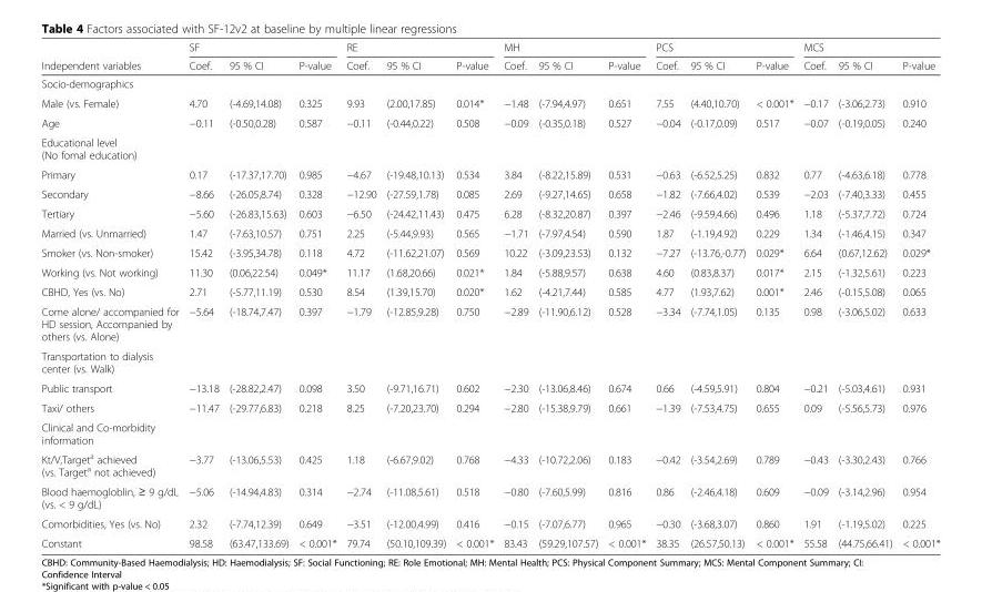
<table><thead><tr><td rowspan="2">Independent variables</td><td colspan="3">SF</td><td colspan="3">RE</td><td colspan="3">MH</td><td colspan="3">PCS</td><td colspan="3">MCS</td></tr><tr><td>Coef.</td><td>95 % CI</td><td>P-value</td><td>Coef.</td><td>95 % CI</td><td>P-value</td><td>Coef.</td><td>95 % CI</td><td>P-value</td><td>Coef.</td><td>95 % CI</td><td>P-value</td><td>Coef.</td><td>95 % CI</td><td>P-value</td></tr></thead><tbody><tr><td colspan="16">Socio-demographics</td></tr><tr><td>Male (vs. Female)</td><td>4.70</td><td>(-4.69,14.08)</td><td>0.325</td><td>9.93</td><td>(2.00,17.85)</td><td>0.014*</td><td>−1.48</td><td>(-7.94,4.97)</td><td>0.651</td><td>7.55</td><td>(4.40,10.70)</td><td>&lt; 0.001*</td><td>−0.17</td><td>(-3.06,2.73)</td><td>0.910</td></tr><tr><td>Age</td><td>−0.11</td><td>(-0.50,0.28)</td><td>0.587</td><td>−0.11</td><td>(-0.44,0.22)</td><td>0.508</td><td>−0.09</td><td>(-0.35,0.18)</td><td>0.527</td><td>−0.04</td><td>(-0.17,0.09)</td><td>0.517</td><td>−0.07</td><td>(-0.19,0.05)</td><td>0.240</td></tr><tr><td colspan="16">Educational level (No fomal education)</td></tr><tr><td>Primary</td><td>0.17</td><td>(-17.37,17.70)</td><td>0.985</td><td>−4.67</td><td>(-19.48,10.13)</td><td>0.534</td><td>3.84</td><td>(-8.22,15.89)</td><td>0.531</td><td>−0.63</td><td>(-6.52,5.25)</td><td>0.832</td><td>0.77</td><td>(-4.63,6.18)</td><td>0.778</td></tr><tr><td>Secondary</td><td>−8.66</td><td>(-26.05,8.74)</td><td>0.328</td><td>−12.90</td><td>(-27.59,1.78)</td><td>0.085</td><td>2.69</td><td>(-9.27,14.65)</td><td>0.658</td><td>−1.82</td><td>(-7.66,4.02)</td><td>0.539</td><td>−2.03</td><td>(-7.40,3.33)</td><td>0.455</td></tr><tr><td>Tertiary</td><td>−5.60</td><td>(-26.83,15.63)</td><td>0.603</td><td>−6.50</td><td>(-24.42,11.43)</td><td>0.475</td><td>6.28</td><td>(-8.32,20.87)</td><td>0.397</td><td>−2.46</td><td>(-9.59,4.66)</td><td>0.496</td><td>1.18</td><td>(-5.37,7.72)</td><td>0.724</td></tr><tr><td>Married (vs. Unmarried)</td><td>1.47</td><td>(-7.63,10.57)</td><td>0.751</td><td>2.25</td><td>(-5.44,9.93)</td><td>0.565</td><td>−1.71</td><td>(-7.97,4.54)</td><td>0.590</td><td>1.87</td><td>(-1.19,4.92)</td><td>0.229</td><td>1.34</td><td>(-1.46,4.15)</td><td>0.347</td></tr><tr><td>Smoker (vs. Non-smoker)</td><td>15.42</td><td>(-3.95,34.78)</td><td>0.118</td><td>4.72</td><td>(-11.62,21.07)</td><td>0.569</td><td>10.22</td><td>(-3.09,23.53)</td><td>0.132</td><td>−7.27</td><td>(-13.76,-0.77)</td><td>0.029*</td><td>6.64</td><td>(0.67,12.62)</td><td>0.029*</td></tr><tr><td>Working (vs. Not working)</td><td>11.30</td><td>(0.06,22.54)</td><td>0.049*</td><td>11.17</td><td>(1.68,20.66)</td><td>0.021*</td><td>1.84</td><td>(-5.88,9.57)</td><td>0.638</td><td>4.60</td><td>(0.83,8.37)</td><td>0.017*</td><td>2.15</td><td>(-1.32,5.61)</td><td>0.223</td></tr><tr><td>CBHD, Yes (vs. No)</td><td>2.71</td><td>(-5.77,11.19)</td><td>0.530</td><td>8.54</td><td>(1.39,15.70)</td><td>0.020*</td><td>1.62</td><td>(-4.21,7.44)</td><td>0.585</td><td>4.77</td><td>(1.93,7.62)</td><td>0.001*</td><td>2.46</td><td>(-0.15,5.08)</td><td>0.065</td></tr><tr><td>Come alone/ accompanied for HD session, Accompanied by others (vs. Alone)</td><td>−5.64</td><td>(-18.74,7.47)</td><td>0.397</td><td>−1.79</td><td>(-12.85,9.28)</td><td>0.750</td><td>−2.89</td><td>(-11.90,6.12)</td><td>0.528</td><td>−3.34</td><td>(-7.74,1.05)</td><td>0.135</td><td>0.98</td><td>(-3.06,5.02)</td><td>0.633</td></tr><tr><td colspan="16">Transportation to dialysis center (vs. Walk)</td></tr><tr><td>Public transport</td><td>−13.18</td><td>(-28.82,2.47)</td><td>0.098</td><td>3.50</td><td>(-9.71,16.71)</td><td>0.602</td><td>−2.30</td><td>(-13.06,8.46)</td><td>0.674</td><td>0.66</td><td>(-4.59,5.91)</td><td>0.804</td><td>−0.21</td><td>(-5.03,4.61)</td><td>0.931</td></tr><tr><td>Taxi/ others</td><td>−11.47</td><td>(-29.77,6.83)</td><td>0.218</td><td>8.25</td><td>(-7.20,23.70)</td><td>0.294</td><td>−2.80</td><td>(-15.38,9.79)</td><td>0.661</td><td>−1.39</td><td>(-7.53,4.75)</td><td>0.655</td><td>0.09</td><td>(-5.56,5.73)</td><td>0.976</td></tr><tr><td colspan="16">Clinical and Co-morbidity information</td></tr><tr><td>Kt/V,Target<sup>a</sup> achieved (vs. Target<sup>a</sup> not achieved)</td><td>−3.77</td><td>(-13.06,5.53)</td><td>0.425</td><td>1.18</td><td>(-6.67,9.02)</td><td>0.768</td><td>−4.33</td><td>(-10.72,2.06)</td><td>0.183</td><td>−0.42</td><td>(-3.54,2.69)</td><td>0.789</td><td>−0.43</td><td>(-3.30,2.43)</td><td>0.766</td></tr><tr><td>Blood haemogloblin, ≥ 9 g/dL (vs. &lt; 9 g/dL)</td><td>−5.06</td><td>(-14.94,4.83)</td><td>0.314</td><td>−2.74</td><td>(-11.08,5.61)</td><td>0.518</td><td>−0.80</td><td>(-7.60,5.99)</td><td>0.816</td><td>0.86</td><td>(-2.46,4.18)</td><td>0.609</td><td>−0.09</td><td>(-3.14,2.96)</td><td>0.954</td></tr><tr><td>Comorbidities, Yes (vs. No)</td><td>2.32</td><td>(-7.74,12.39)</td><td>0.649</td><td>−3.51</td><td>(-12.00,4.99)</td><td>0.416</td><td>−0.15</td><td>(-7.07,6.77)</td><td>0.965</td><td>−0.30</td><td>(-3.68,3.07)</td><td>0.860</td><td>1.91</td><td>(-1.19,5.02)</td><td>0.225</td></tr><tr><td>Constant</td><td>98.58</td><td>(63.47,133.69)</td><td>&lt; 0.001*</td><td>79.74</td><td>(50.10,109.39)</td><td>&lt; 0.001*</td><td>83.43</td><td>(59.29,107.57)</td><td>&lt; 0.001*</td><td>38.35</td><td>(26.57,50.13)</td><td>&lt; 0.001*</td><td>55.58</td><td>(44.75,66.41)</td><td>&lt; 0.001*</td></tr></tbody></table>